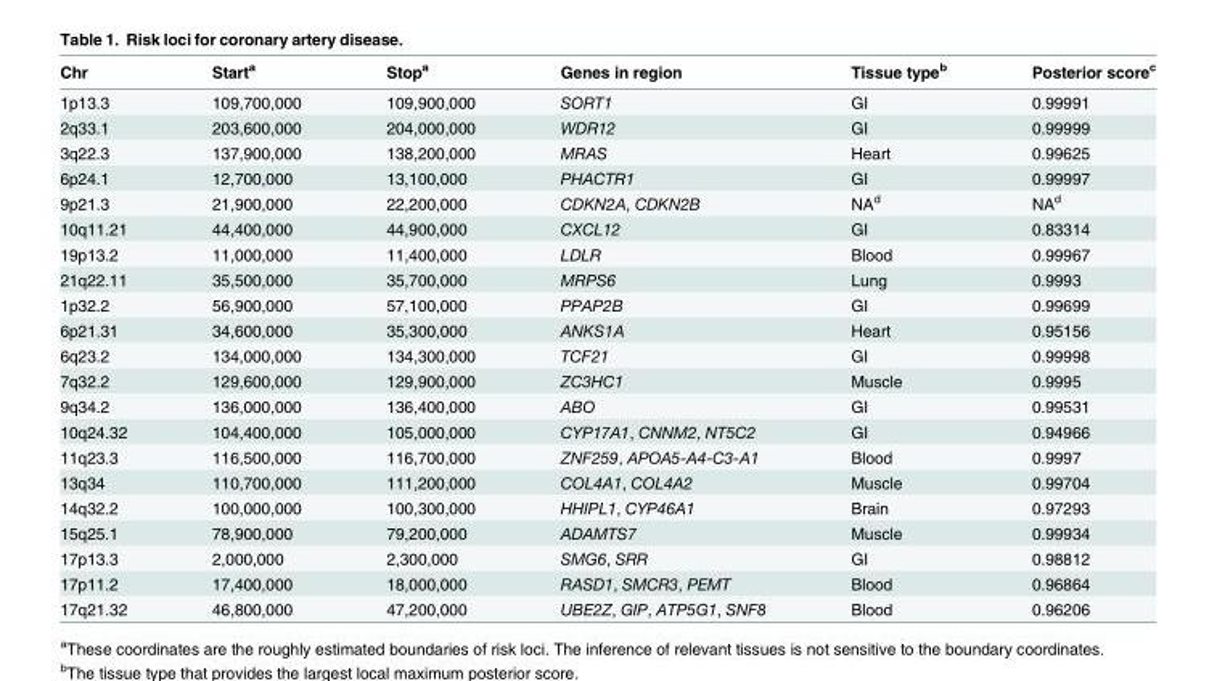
<table><thead><tr><td>Chr</td><td>Start<sup>a</sup></td><td>Stop<sup>a</sup></td><td>Genes in region</td><td>Tissue type<sup>b</sup></td><td>Posterior score<sup>c</sup></td></tr></thead><tbody><tr><td>1p13.3</td><td>109,700,000</td><td>109,900,000</td><td>SORT1</td><td>GI</td><td>0.99991</td></tr><tr><td>2q33.1</td><td>203,600,000</td><td>204,000,000</td><td>WDR12</td><td>GI</td><td>0.99999</td></tr><tr><td>3q22.3</td><td>137,900,000</td><td>138,200,000</td><td>MRAS</td><td>Heart</td><td>0.99625</td></tr><tr><td>6p24.1</td><td>12,700,000</td><td>13,100,000</td><td>PHACTR1</td><td>GI</td><td>0.99997</td></tr><tr><td>9p21.3</td><td>21,900,000</td><td>22,200,000</td><td>CDKN2A, CDKN2B</td><td>NA<sup>d</sup></td><td>NA<sup>d</sup></td></tr><tr><td>10q11.21</td><td>44,400,000</td><td>44,900,000</td><td>CXCL12</td><td>GI</td><td>0.83314</td></tr><tr><td>19p13.2</td><td>11,000,000</td><td>11,400,000</td><td>LDLR</td><td>Blood</td><td>0.99967</td></tr><tr><td>21q22.11</td><td>35,500,000</td><td>35,700,000</td><td>MRPS6</td><td>Lung</td><td>0.9993</td></tr><tr><td>1p32.2</td><td>56,900,000</td><td>57,100,000</td><td>PPAP2B</td><td>GI</td><td>0.99699</td></tr><tr><td>6p21.31</td><td>34,600,000</td><td>35,300,000</td><td>ANKS1A</td><td>Heart</td><td>0.95156</td></tr><tr><td>6q23.2</td><td>134,000,000</td><td>134,300,000</td><td>TCF21</td><td>GI</td><td>0.99998</td></tr><tr><td>7q32.2</td><td>129,600,000</td><td>129,900,000</td><td>ZC3HC1</td><td>Muscle</td><td>0.9995</td></tr><tr><td>9q34.2</td><td>136,000,000</td><td>136,400,000</td><td>ABO</td><td>GI</td><td>0.99531</td></tr><tr><td>10q24.32</td><td>104,400,000</td><td>105,000,000</td><td>CYP17A1, CNNM2, NT5C2</td><td>GI</td><td>0.94966</td></tr><tr><td>11q23.3</td><td>116,500,000</td><td>116,700,000</td><td>ZNF259, APOA5-A4-C3-A1</td><td>Blood</td><td>0.9997</td></tr><tr><td>13q34</td><td>110,700,000</td><td>111,200,000</td><td>COL4A1, COL4A2</td><td>Muscle</td><td>0.99704</td></tr><tr><td>14q32.2</td><td>100,000,000</td><td>100,300,000</td><td>HHIPL1, CYP46A1</td><td>Brain</td><td>0.97293</td></tr><tr><td>15q25.1</td><td>78,900,000</td><td>79,200,000</td><td>ADAMTS7</td><td>Muscle</td><td>0.99934</td></tr><tr><td>17p13.3</td><td>2,000,000</td><td>2,300,000</td><td>SMG6, SRR</td><td>GI</td><td>0.98812</td></tr><tr><td>17p11.2</td><td>17,400,000</td><td>18,000,000</td><td>RASD1, SMCR3, PEMT</td><td>Blood</td><td>0.96864</td></tr><tr><td>17q21.32</td><td>46,800,000</td><td>47,200,000</td><td>UBE2Z, GIP, ATP5G1, SNF8</td><td>Blood</td><td>0.96206</td></tr></tbody></table>